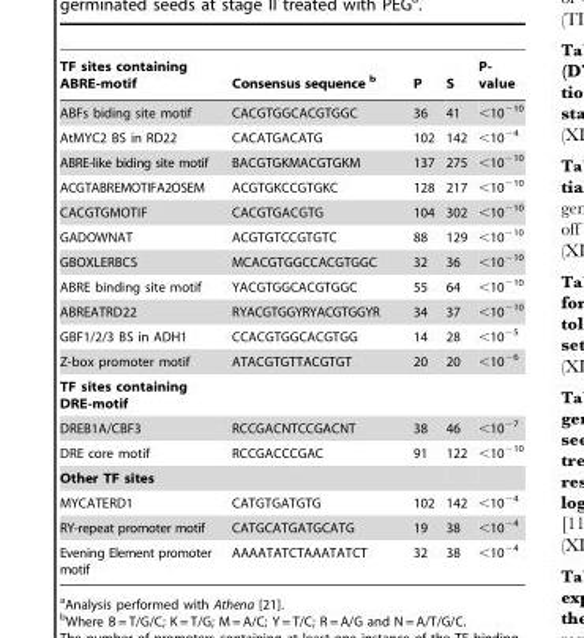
<table><thead><tr><td>TF sites containing ABRE-motif</td><td>Consensus sequence b</td><td>P</td><td>S</td><td>P- value</td></tr></thead><tbody><tr><td>ABFs biding site motif</td><td>CACGTGGCACGTGGC</td><td>36</td><td>41</td><td>&lt;10<sup>−10</sup></td></tr><tr><td>AtMYC2 BS in RD22</td><td>CACATGACATG</td><td>102</td><td>142</td><td>&lt;10<sup>−4</sup></td></tr><tr><td>ABRE-like biding site motif</td><td>BACGTGKMACGTGKM</td><td>137</td><td>275</td><td>&lt;10<sup>−10</sup></td></tr><tr><td>ACGTABREMOTIFA2OSEM</td><td>ACGTGKCCGTGKC</td><td>128</td><td>217</td><td>&lt;10<sup>−10</sup></td></tr><tr><td>CACGTGMOTIF</td><td>CACGTGACGTG</td><td>104</td><td>302</td><td>&lt;10<sup>−10</sup></td></tr><tr><td>GADOWNAT</td><td>ACGTGTCCGTGTC</td><td>88</td><td>129</td><td>&lt;10<sup>−10</sup></td></tr><tr><td>GBOXLERBCS</td><td>MCACGTGGCCACGTGGC</td><td>32</td><td>36</td><td>&lt;10<sup>−10</sup></td></tr><tr><td>ABRE binding site motif</td><td>YACGTGGCACGTGGC</td><td>55</td><td>64</td><td>&lt;10<sup>−10</sup></td></tr><tr><td>ABREATRD22</td><td>RYACGTGGYRYACGTGGYR</td><td>34</td><td>37</td><td>&lt;10<sup>−10</sup></td></tr><tr><td>GBF1/2/3 BS in ADH1</td><td>CCACGTGGCACGTGG</td><td>14</td><td>28</td><td>&lt;10<sup>−5</sup></td></tr><tr><td>Z-box promoter motif</td><td>ATACGTGTTACGTGT</td><td>20</td><td>20</td><td>&lt;10<sup>−6</sup></td></tr><tr><td colspan="5">TF sites containing DRE-motif</td></tr><tr><td>DREB1A/CBF3</td><td>RCCGACNTCCGACNT</td><td>38</td><td>46</td><td>&lt;10<sup>−7</sup></td></tr><tr><td>DRE core motif</td><td>RCCGACCCGAC</td><td>91</td><td>122</td><td>&lt;10<sup>−10</sup></td></tr><tr><td colspan="5">Other TF sites</td></tr><tr><td>MYCATERD1</td><td>CATGTGATGTG</td><td>102</td><td>142</td><td>&lt;10<sup>−4</sup></td></tr><tr><td>RY-repeat promoter motif</td><td>CATGCATGATGCATG</td><td>19</td><td>38</td><td>&lt;10<sup>−4</sup></td></tr><tr><td>Evening Element promoter motif</td><td>AAAATATCTAAATATCT</td><td>32</td><td>38</td><td>&lt;10<sup>−4</sup></td></tr></tbody></table>